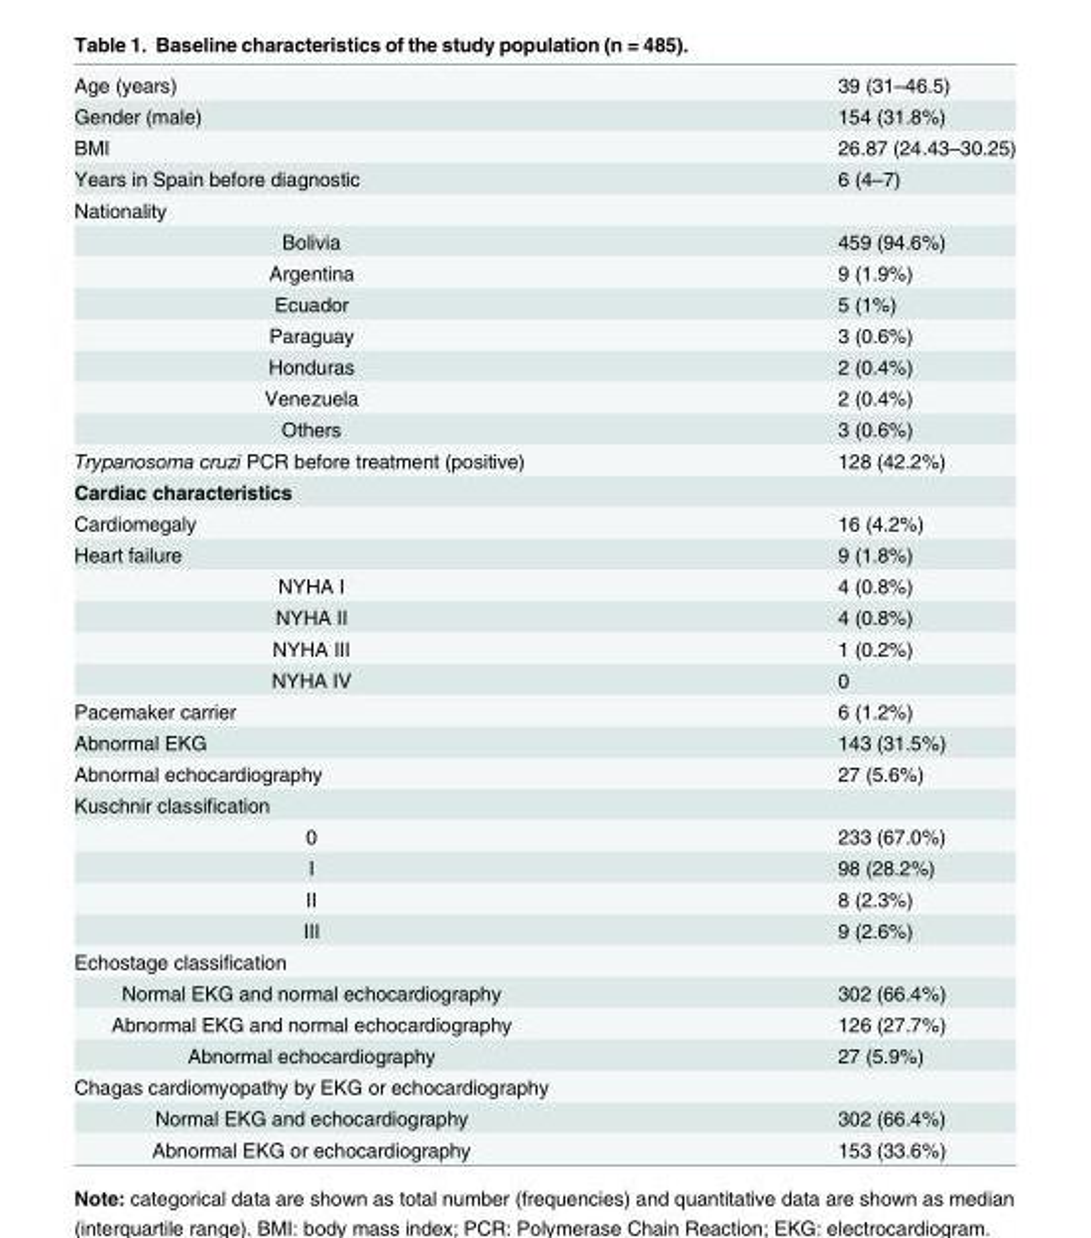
<table><tbody><tr><td>Age (years)</td><td>39 (31–46.5)</td></tr><tr><td>Gender (male)</td><td>154 (31.8%)</td></tr><tr><td>BMI</td><td>26.87 (24.43–30.25)</td></tr><tr><td>Years in Spain before diagnostic</td><td>6 (4–7)</td></tr><tr><td colspan="2">Nationality</td></tr><tr><td>Bolivia</td><td>459 (94.6%)</td></tr><tr><td>Argentina</td><td>9 (1.9%)</td></tr><tr><td>Ecuador</td><td>5 (1%)</td></tr><tr><td>Paraguay</td><td>3 (0.6%)</td></tr><tr><td>Honduras</td><td>2 (0.4%)</td></tr><tr><td>Venezuela</td><td>2 (0.4%)</td></tr><tr><td>Others</td><td>3 (0.6%)</td></tr><tr><td>Trypanosoma cruzi PCR before treatment (positive)</td><td>128 (42.2%)</td></tr><tr><td colspan="2">Cardiac characteristics</td></tr><tr><td>Cardiomegaly</td><td>16 (4.2%)</td></tr><tr><td>Heart failure</td><td>9 (1.8%)</td></tr><tr><td>NYHA I</td><td>4 (0.8%)</td></tr><tr><td>NYHA II</td><td>4 (0.8%)</td></tr><tr><td>NYHA III</td><td>1 (0.2%)</td></tr><tr><td>NYHA IV</td><td>0</td></tr><tr><td>Pacemaker carrier</td><td>6 (1.2%)</td></tr><tr><td>Abnormal EKG</td><td>143 (31.5%)</td></tr><tr><td>Abnormal echocardiography</td><td>27 (5.6%)</td></tr><tr><td colspan="2">Kuschnir classification</td></tr><tr><td>0</td><td>233 (67.0%)</td></tr><tr><td>I</td><td>98 (28.2%)</td></tr><tr><td>II</td><td>8 (2.3%)</td></tr><tr><td>III</td><td>9 (2.6%)</td></tr><tr><td colspan="2">Echostage classification</td></tr><tr><td>Normal EKG and normal echocardiography</td><td>302 (66.4%)</td></tr><tr><td>Abnormal EKG and normal echocardiography</td><td>126 (27.7%)</td></tr><tr><td>Abnormal echocardiography</td><td>27 (5.9%)</td></tr><tr><td colspan="2">Chagas cardiomyopathy by EKG or echocardiography</td></tr><tr><td>Normal EKG and echocardiography</td><td>302 (66.4%)</td></tr><tr><td>Abnormal EKG or echocardiography</td><td>153 (33.6%)</td></tr></tbody></table>